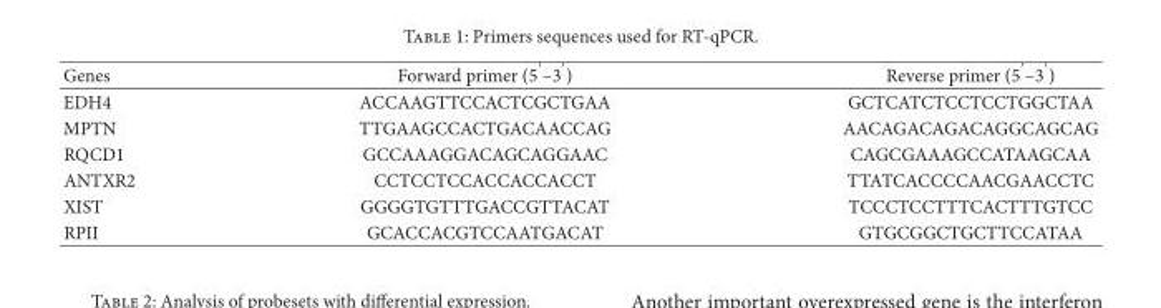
<table><thead><tr><td>Genes</td><td>Forward primer (5′–3′)</td><td>Reverse primer (5′–3′)</td></tr></thead><tbody><tr><td>EDH4</td><td>ACCAAGTTCCACTCGCTGAA</td><td>GCTCATCTCCTCCTGGCTAA</td></tr><tr><td>MPTN</td><td>TTGAAGCCACTGACAACCAG</td><td>AACAGACAGACAGGCAGCAG</td></tr><tr><td>RQCD1</td><td>GCCAAAGGACAGCAGGAAC</td><td>CAGCGAAAGCCATAAGCAA</td></tr><tr><td>ANTXR2</td><td>CCTCCTCCACCACCACCT</td><td>TTATCACCCCAACGAACCTC</td></tr><tr><td>XIST</td><td>GGGGTGTTTGACCGTTACAT</td><td>TCCCTCCTTTCACTTTGTCC</td></tr><tr><td>RPII</td><td>GCACCACGTCCAATGACAT</td><td>GTGCGGCTGCTTCCATAA</td></tr></tbody></table>